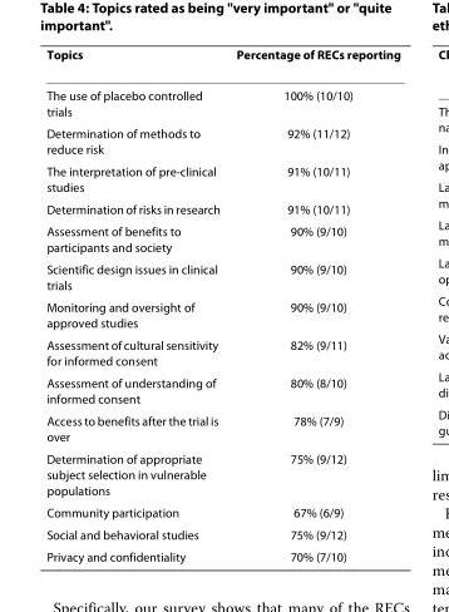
<table><thead><tr><td>Topics</td><td>Percentage of RECs reporting</td></tr></thead><tbody><tr><td>The use of placebo controlled trials</td><td>100% (10/10)</td></tr><tr><td>Determination of methods to reduce risk</td><td>92% (11/12)</td></tr><tr><td>The interpretation of pre-clinical studies</td><td>91% (10/11)</td></tr><tr><td>Determination of risks in research</td><td>91% (10/11)</td></tr><tr><td>Assessment of benefits to participants and society</td><td>90% (9/10)</td></tr><tr><td>Scientific design issues in clinical trials</td><td>90% (9/10)</td></tr><tr><td>Monitoring and oversight of approved studies</td><td>90% (9/10)</td></tr><tr><td>Assessment of cultural sensitivity for informed consent</td><td>82% (9/11)</td></tr><tr><td>Assessment of understanding of informed consent</td><td>80% (8/10)</td></tr><tr><td>Access to benefits after the trial is over</td><td>78% (7/9)</td></tr><tr><td>Determination of appropriate subject selection in vulnerable populations</td><td>75% (9/12)</td></tr><tr><td>Community participation</td><td>67% (6/9)</td></tr><tr><td>Social and behavioral studies</td><td>75% (9/12)</td></tr><tr><td>Privacy and confidentiality</td><td>70% (7/10)</td></tr></tbody></table>